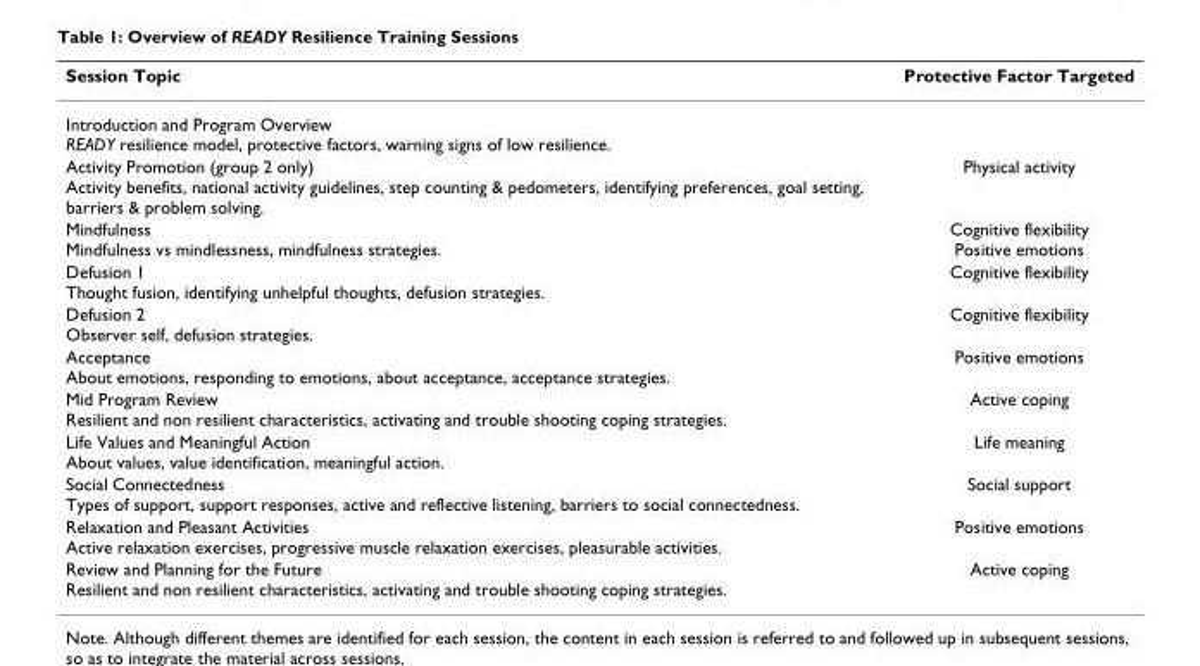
<table><thead><tr><td>Session Topic</td><td>Protective Factor Targeted</td></tr></thead><tbody><tr><td colspan="2">Introduction and Program Overview READY resilience model, protective factors, warning signs of low resilience.</td></tr><tr><td>Activity Promotion (group 2 only) Activity benefits, national activity guidelines, step counting &amp; pedometers, identifying preferences, goal setting, barriers &amp; problem solving.</td><td>Physical activity</td></tr><tr><td>Mindfulness Mindfulness vs mindlessness, mindfulness strategies.</td><td>Cognitive flexibility Positive emotions</td></tr><tr><td>Defusion 1 Thought fusion, identifying unhelpful thoughts, defusion strategies.</td><td>Cognitive flexibility</td></tr><tr><td>Defusion 2 Observer self, defusion strategies.</td><td>Cognitive flexibility</td></tr><tr><td>Acceptance About emotions, responding to emotions, about acceptance, acceptance strategies.</td><td>Positive emotions</td></tr><tr><td>Mid Program Review Resilient and non resilient characteristics, activating and trouble shooting coping strategies.</td><td>Active coping</td></tr><tr><td>Life Values and Meaningful Action About values, value identification, meaningful action.</td><td>Life meaning</td></tr><tr><td>Social Connectedness Types of support, support responses, active and reflective listening, barriers to social connectedness.</td><td>Social support</td></tr><tr><td>Relaxation and Pleasant Activities Active relaxation exercises, progressive muscle relaxation exercises, pleasurable activities.</td><td>Positive emotions</td></tr><tr><td>Review and Planning for the Future Resilient and non resilient characteristics, activating and trouble shooting coping strategies.</td><td>Active coping</td></tr></tbody></table>